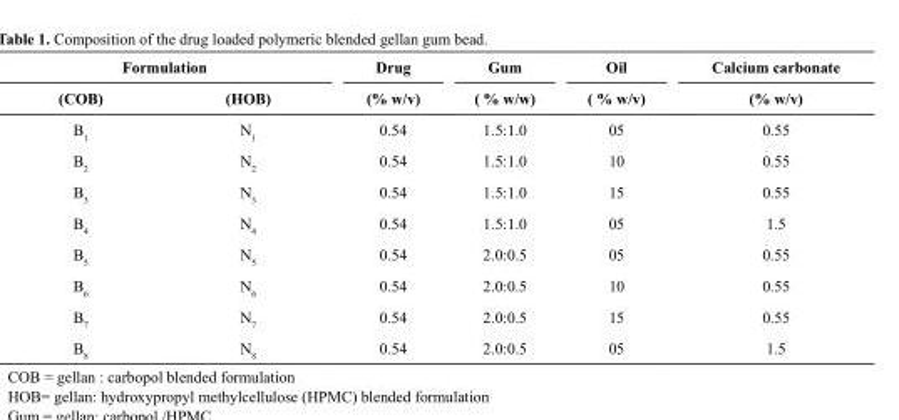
<table><thead><tr><td colspan="2">Formulation</td><td rowspan="2">Drug (% w/v)</td><td rowspan="2">Gum ( % w/w)</td><td rowspan="2">Oil ( % w/v)</td><td rowspan="2">Calcium carbonate (% w/v)</td></tr><tr><td>(COB)</td><td>(HOB)</td></tr></thead><tbody><tr><td>B<sub>1</sub></td><td>N<sub>1</sub></td><td>0.54</td><td>1.5:1.0</td><td>05</td><td>0.55</td></tr><tr><td>B<sub>2</sub></td><td>N<sub>2</sub></td><td>0.54</td><td>1.5:1.0</td><td>10</td><td>0.55</td></tr><tr><td>B<sub>3</sub></td><td>N<sub>3</sub></td><td>0.54</td><td>1.5:1.0</td><td>15</td><td>0.55</td></tr><tr><td>B<sub>4</sub></td><td>N<sub>4</sub></td><td>0.54</td><td>1.5:1.0</td><td>05</td><td>1.5</td></tr><tr><td>B<sub>5</sub></td><td>N<sub>5</sub></td><td>0.54</td><td>2.0:0.5</td><td>05</td><td>0.55</td></tr><tr><td>B<sub>6</sub></td><td>N<sub>6</sub></td><td>0.54</td><td>2.0:0.5</td><td>10</td><td>0.55</td></tr><tr><td>B<sub>7</sub></td><td>N<sub>7</sub></td><td>0.54</td><td>2.0:0.5</td><td>15</td><td>0.55</td></tr><tr><td>B<sub>8</sub></td><td>N<sub>8</sub></td><td>0.54</td><td>2.0:0.5</td><td>05</td><td>1.5</td></tr></tbody></table>